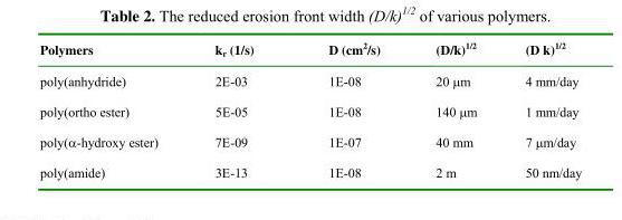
<table><thead><tr><td>Polymers</td><td>k<sub>r</sub> (1/s)</td><td>D (cm<sup>2</sup>/s)</td><td>(D/k)<sup>1/2</sup></td><td>(D k)<sup>1/2</sup></td></tr></thead><tbody><tr><td>poly(anhydride)</td><td>2E-03</td><td>1E-08</td><td>20 μm</td><td>4 mm/day</td></tr><tr><td>poly(ortho ester)</td><td>5E-05</td><td>1E-08</td><td>140 μm</td><td>1 mm/day</td></tr><tr><td>poly(α-hydroxy ester)</td><td>7E-09</td><td>1E-07</td><td>40 mm</td><td>7 μm/day</td></tr><tr><td>poly(amide)</td><td>3E-13</td><td>1E-08</td><td>2 m</td><td>50 nm/day</td></tr></tbody></table>